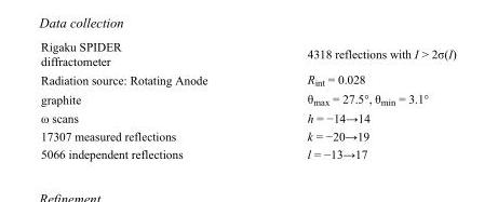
<table><tbody><tr><td>Rigaku SPIDER diffractometer</td><td>4318 reflections with I &gt; 2σ(I)</td></tr><tr><td>Radiation source: Rotating Anode</td><td>R<sub>int</sub> = 0.028</td></tr><tr><td>graphite</td><td>θ<sub>max</sub> = 27.5°, θ<sub>min</sub> = 3.1°</td></tr><tr><td>ω scans</td><td>h = −14→14</td></tr><tr><td>17307 measured reflections</td><td>k = −20→19</td></tr><tr><td>5066 independent reflections</td><td>l = −13→17</td></tr></tbody></table>